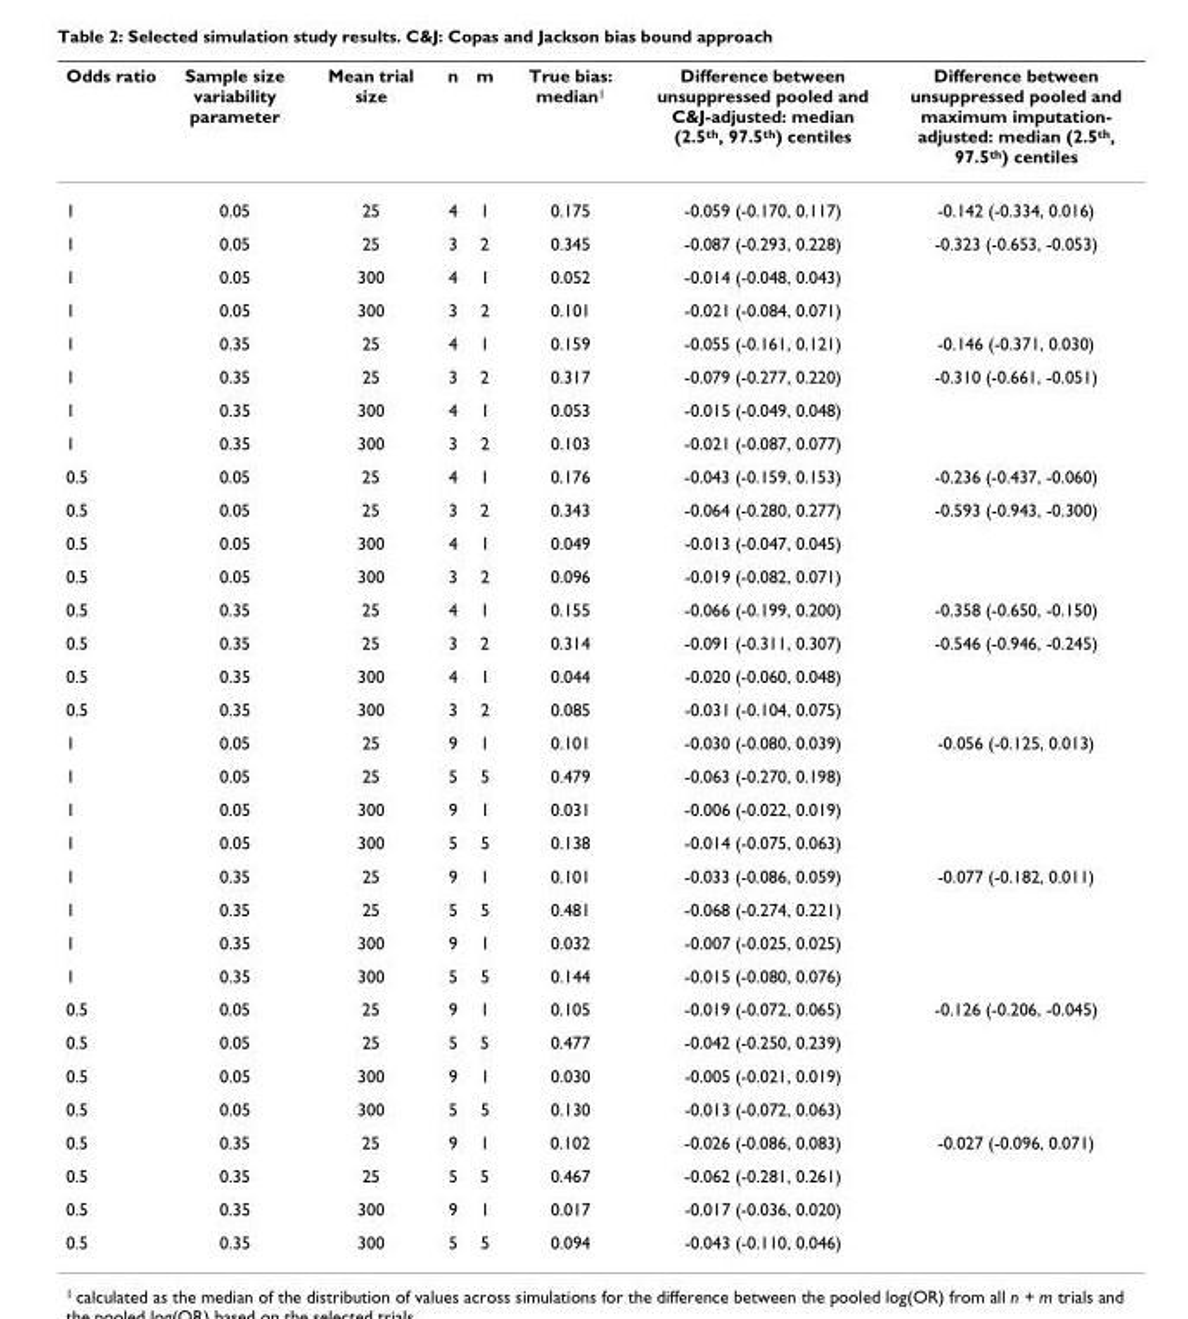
<table><thead><tr><td>Odds ratio</td><td>Sample size variability parameter</td><td>Mean trial size</td><td>n</td><td>m</td><td>True bias: median<sup>1</sup></td><td>Difference between unsuppressed pooled and C&amp;J-adjusted: median (2.5<sup>th</sup>, 97.5<sup>th</sup>) centiles</td><td>Difference between unsuppressed pooled and maximum imputation- adjusted: median (2.5<sup>th</sup>, 97.5<sup>th</sup>) centiles</td></tr></thead><tbody><tr><td>1</td><td>0.05</td><td>25</td><td>4</td><td>1</td><td>0.175</td><td>-0.059 (-0.170, 0.117)</td><td>-0.142 (-0.334, 0.016)</td></tr><tr><td>1</td><td>0.05</td><td>25</td><td>3</td><td>2</td><td>0.345</td><td>-0.087 (-0.293, 0.228)</td><td>-0.323 (-0.653, -0.053)</td></tr><tr><td>1</td><td>0.05</td><td>300</td><td>4</td><td>1</td><td>0.052</td><td>-0.014 (-0.048, 0.043)</td><td></td></tr><tr><td>1</td><td>0.05</td><td>300</td><td>3</td><td>2</td><td>0.101</td><td>-0.021 (-0.084, 0.071)</td><td></td></tr><tr><td>1</td><td>0.35</td><td>25</td><td>4</td><td>1</td><td>0.159</td><td>-0.055 (-0.161, 0.121)</td><td>-0.146 (-0.371, 0.030)</td></tr><tr><td>1</td><td>0.35</td><td>25</td><td>3</td><td>2</td><td>0.317</td><td>-0.079 (-0.277, 0.220)</td><td>-0.310 (-0.661, -0.051)</td></tr><tr><td>1</td><td>0.35</td><td>300</td><td>4</td><td>1</td><td>0.053</td><td>-0.015 (-0.049, 0.048)</td><td></td></tr><tr><td>1</td><td>0.35</td><td>300</td><td>3</td><td>2</td><td>0.103</td><td>-0.021 (-0.087, 0.077)</td><td></td></tr><tr><td>0.5</td><td>0.05</td><td>25</td><td>4</td><td>1</td><td>0.176</td><td>-0.043 (-0.159, 0.153)</td><td>-0.236 (-0.437, -0.060)</td></tr><tr><td>0.5</td><td>0.05</td><td>25</td><td>3</td><td>2</td><td>0.343</td><td>-0.064 (-0.280, 0.277)</td><td>-0.593 (-0.943, -0.300)</td></tr><tr><td>0.5</td><td>0.05</td><td>300</td><td>4</td><td>1</td><td>0.049</td><td>-0.013 (-0.047, 0.045)</td><td></td></tr><tr><td>0.5</td><td>0.05</td><td>300</td><td>3</td><td>2</td><td>0.096</td><td>-0.019 (-0.082, 0.071)</td><td></td></tr><tr><td>0.5</td><td>0.35</td><td>25</td><td>4</td><td>1</td><td>0.155</td><td>-0.066 (-0.199, 0.200)</td><td>-0.358 (-0.650, -0.150)</td></tr><tr><td>0.5</td><td>0.35</td><td>25</td><td>3</td><td>2</td><td>0.314</td><td>-0.091 (-0.311, 0.307)</td><td>-0.546 (-0.946, -0.245)</td></tr><tr><td>0.5</td><td>0.35</td><td>300</td><td>4</td><td>1</td><td>0.044</td><td>-0.020 (-0.060, 0.048)</td><td></td></tr><tr><td>0.5</td><td>0.35</td><td>300</td><td>3</td><td>2</td><td>0.085</td><td>-0.031 (-0.104, 0.075)</td><td></td></tr><tr><td>1</td><td>0.05</td><td>25</td><td>9</td><td>1</td><td>0.101</td><td>-0.030 (-0.080, 0.039)</td><td>-0.056 (-0.125, 0.013)</td></tr><tr><td>1</td><td>0.05</td><td>25</td><td>5</td><td>5</td><td>0.479</td><td>-0.063 (-0.270, 0.198)</td><td></td></tr><tr><td>1</td><td>0.05</td><td>300</td><td>9</td><td>1</td><td>0.031</td><td>-0.006 (-0.022, 0.019)</td><td></td></tr><tr><td>1</td><td>0.05</td><td>300</td><td>5</td><td>5</td><td>0.138</td><td>-0.014 (-0.075, 0.063)</td><td></td></tr><tr><td>1</td><td>0.35</td><td>25</td><td>9</td><td>1</td><td>0.101</td><td>-0.033 (-0.086, 0.059)</td><td>-0.077 (-0.182, 0.011)</td></tr><tr><td>1</td><td>0.35</td><td>25</td><td>5</td><td>5</td><td>0.481</td><td>-0.068 (-0.274, 0.221)</td><td></td></tr><tr><td>1</td><td>0.35</td><td>300</td><td>9</td><td>1</td><td>0.032</td><td>-0.007 (-0.025, 0.025)</td><td></td></tr><tr><td>1</td><td>0.35</td><td>300</td><td>5</td><td>5</td><td>0.144</td><td>-0.015 (-0.080, 0.076)</td><td></td></tr><tr><td>0.5</td><td>0.05</td><td>25</td><td>9</td><td>1</td><td>0.105</td><td>-0.019 (-0.072, 0.065)</td><td>-0.126 (-0.206, -0.045)</td></tr><tr><td>0.5</td><td>0.05</td><td>25</td><td>5</td><td>5</td><td>0.477</td><td>-0.042 (-0.250, 0.239)</td><td></td></tr><tr><td>0.5</td><td>0.05</td><td>300</td><td>9</td><td>1</td><td>0.030</td><td>-0.005 (-0.021, 0.019)</td><td></td></tr><tr><td>0.5</td><td>0.05</td><td>300</td><td>5</td><td>5</td><td>0.130</td><td>-0.013 (-0.072, 0.063)</td><td></td></tr><tr><td>0.5</td><td>0.35</td><td>25</td><td>9</td><td>1</td><td>0.102</td><td>-0.026 (-0.086, 0.083)</td><td>-0.027 (-0.096, 0.071)</td></tr><tr><td>0.5</td><td>0.35</td><td>25</td><td>5</td><td>5</td><td>0.467</td><td>-0.062 (-0.281, 0.261)</td><td></td></tr><tr><td>0.5</td><td>0.35</td><td>300</td><td>9</td><td>1</td><td>0.017</td><td>-0.017 (-0.036, 0.020)</td><td></td></tr><tr><td>0.5</td><td>0.35</td><td>300</td><td>5</td><td>5</td><td>0.094</td><td>-0.043 (-0.110, 0.046)</td><td></td></tr></tbody></table>